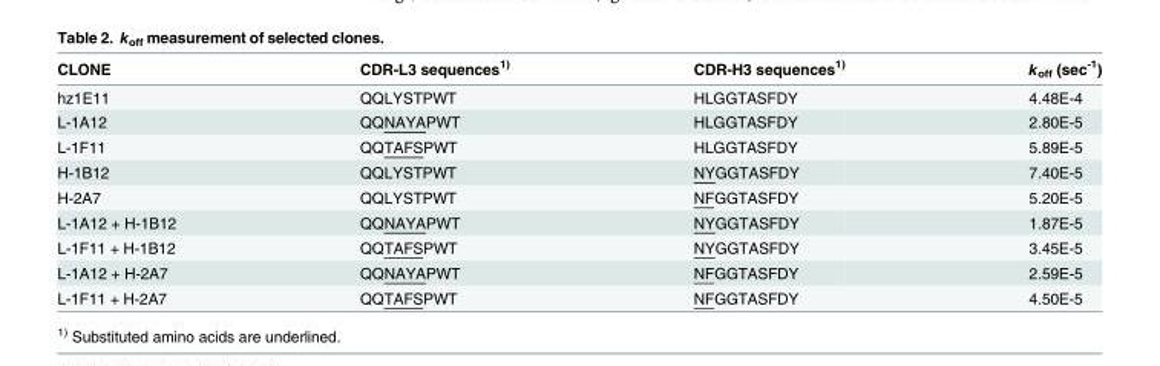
<table><thead><tr><td>CLONE</td><td>CDR-L3 sequences<sup>1)</sup></td><td>CDR-H3 sequences<sup>1)</sup></td><td>k<sub>off</sub> (sec<sup>-1</sup>)</td></tr></thead><tbody><tr><td>hz1E11</td><td>QQLYSTPWT</td><td>HLGGTASFDY</td><td>4.48E-4</td></tr><tr><td>L-1A12</td><td>QQNAYAPWT</td><td>HLGGTASFDY</td><td>2.80E-5</td></tr><tr><td>L-1F11</td><td>QQTAFSPWT</td><td>HLGGTASFDY</td><td>5.89E-5</td></tr><tr><td>H-1B12</td><td>QQLYSTPWT</td><td>NYGGTASFDY</td><td>7.40E-5</td></tr><tr><td>H-2A7</td><td>QQLYSTPWT</td><td>NFGGTASFDY</td><td>5.20E-5</td></tr><tr><td>L-1A12 + H-1B12</td><td>QQNAYAPWT</td><td>NYGGTASFDY</td><td>1.87E-5</td></tr><tr><td>L-1F11 + H-1B12</td><td>QQTAFSPWT</td><td>NYGGTASFDY</td><td>3.45E-5</td></tr><tr><td>L-1A12 + H-2A7</td><td>QQNAYAPWT</td><td>NFGGTASFDY</td><td>2.59E-5</td></tr><tr><td>L-1F11 + H-2A7</td><td>QQTAFSPWT</td><td>NFGGTASFDY</td><td>4.50E-5</td></tr></tbody></table>